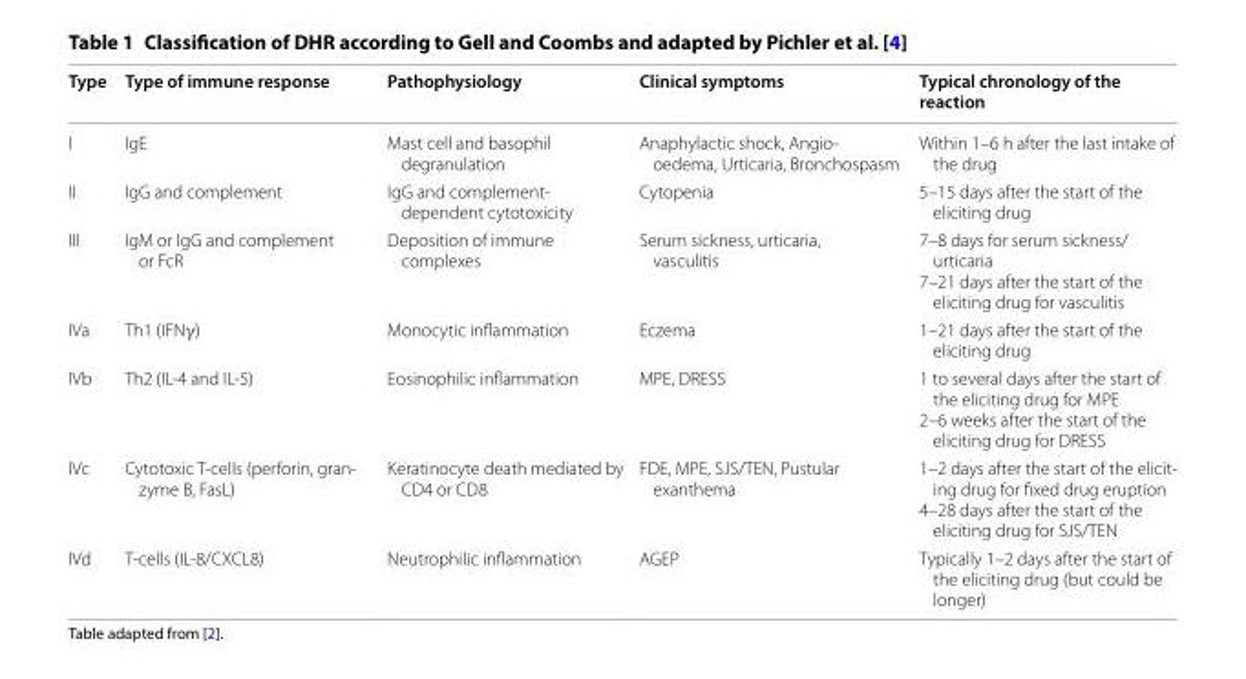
<table><thead><tr><td>Type</td><td>Type of immune response</td><td>Pathophysiology</td><td>Clinical symptoms</td><td>Typical chronology of the reaction</td></tr></thead><tbody><tr><td>I</td><td>IgE</td><td>Mast cell and basophil degranulation</td><td>Anaphylactic shock, Angio- oedema, Urticaria, Bronchospasm</td><td>Within 1–6 h after the last intake of the drug</td></tr><tr><td>II</td><td>IgG and complement</td><td>IgG and complement- dependent cytotoxicity</td><td>Cytopenia</td><td>5–15 days after the start of the eliciting drug</td></tr><tr><td>III</td><td>IgM or IgG and complement or FcR</td><td>Deposition of immune complexes</td><td>Serum sickness, urticaria, vasculitis</td><td>7–8 days for serum sickness/ urticaria 7–21 days after the start of the eliciting drug for vasculitis</td></tr><tr><td>IVa</td><td>Th1 (IFNγ)</td><td>Monocytic inflammation</td><td>Eczema</td><td>1–21 days after the start of the eliciting drug</td></tr><tr><td>IVb</td><td>Th2 (IL-4 and IL-5)</td><td>Eosinophilic inflammation</td><td>MPE, DRESS</td><td>1 to several days after the start of the eliciting drug for MPE 2–6 weeks after the start of the eliciting drug for DRESS</td></tr><tr><td>IVc</td><td>Cytotoxic T-cells (perforin, gran- zyme B, FasL)</td><td>Keratinocyte death mediated by CD4 or CD8</td><td>FDE, MPE, SJS/TEN, Pustular exanthema</td><td>1–2 days after the start of the elicit- ing drug for fixed drug eruption 4–28 days after the start of the eliciting drug for SJS/TEN</td></tr><tr><td>IVd</td><td>T-cells (IL-8/CXCL8)</td><td>Neutrophilic inflammation</td><td>AGEP</td><td>Typically 1–2 days after the start of the eliciting drug (but could be longer)</td></tr></tbody></table>